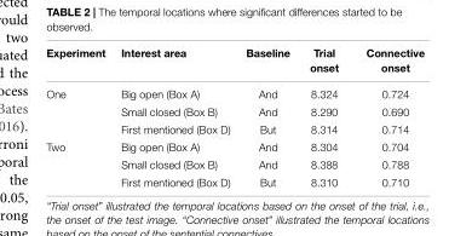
<table><thead><tr><td>Experiment</td><td>Interest area</td><td>Baseline</td><td>Trial onset</td><td>Connective onset</td></tr></thead><tbody><tr><td rowspan="3">One</td><td>Big open (Box A)</td><td>And</td><td>8.324</td><td>0.724</td></tr><tr><td>Small closed (Box B)</td><td>And</td><td>8.290</td><td>0.690</td></tr><tr><td>First mentioned (Box D)</td><td>But</td><td>8.314</td><td>0.714</td></tr><tr><td rowspan="3">Two</td><td>Big open (Box A)</td><td>And</td><td>8.304</td><td>0.704</td></tr><tr><td>Small closed (Box B)</td><td>And</td><td>8.388</td><td>0.788</td></tr><tr><td>First mentioned (Box D)</td><td>But</td><td>8.310</td><td>0.710</td></tr></tbody></table>